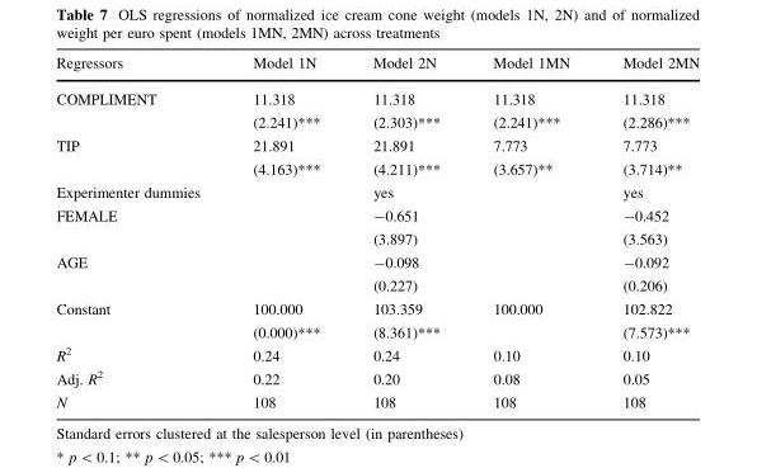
<table><thead><tr><td>Regressors</td><td>Model 1N</td><td>Model 2N</td><td>Model 1MN</td><td>Model 2MN</td></tr></thead><tbody><tr><td rowspan="2">COMPLIMENT</td><td>11.318</td><td>11.318</td><td>11.318</td><td>11.318</td></tr><tr><td>(2.241)***</td><td>(2.303)***</td><td>(2.241)***</td><td>(2.286)***</td></tr><tr><td rowspan="2">TIP</td><td>21.891</td><td>21.891</td><td>7.773</td><td>7.773</td></tr><tr><td>(4.163)***</td><td>(4.211)***</td><td>(3.657)**</td><td>(3.714)**</td></tr><tr><td>Experimenter dummies</td><td></td><td>yes</td><td></td><td>yes</td></tr><tr><td rowspan="2">FEMALE</td><td></td><td>-0.651</td><td></td><td>-0.452</td></tr><tr><td></td><td>(3.897)</td><td></td><td>(3.563)</td></tr><tr><td rowspan="2">AGE</td><td></td><td>-0.098</td><td></td><td>-0.092</td></tr><tr><td></td><td>(0.227)</td><td></td><td>(0.206)</td></tr><tr><td rowspan="2">Constant</td><td>100.000</td><td>103.359</td><td>100.000</td><td>102.822</td></tr><tr><td>(0.000)***</td><td>(8.361)***</td><td></td><td>(7.573)***</td></tr><tr><td>R<sup>2</sup></td><td>0.24</td><td>0.24</td><td>0.10</td><td>0.10</td></tr><tr><td>Adj. R<sup>2</sup></td><td>0.22</td><td>0.20</td><td>0.08</td><td>0.05</td></tr><tr><td>N</td><td>108</td><td>108</td><td>108</td><td>108</td></tr></tbody></table>